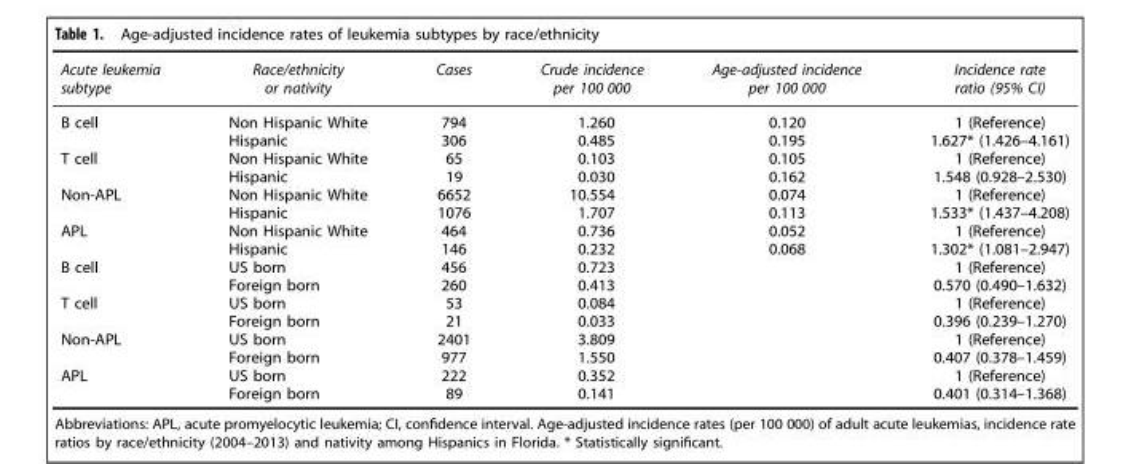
<table><thead><tr><td>Acute leukemia subtype</td><td>Race/ethnicity or nativity</td><td>Cases</td><td>Crude incidence per 100 000</td><td>Age-adjusted incidence per 100 000</td><td>Incidence rate ratio (95% CI)</td></tr></thead><tbody><tr><td rowspan="2">B cell</td><td>Non Hispanic White</td><td>794</td><td>1.260</td><td>0.120</td><td>1 (Reference)</td></tr><tr><td>Hispanic</td><td>306</td><td>0.485</td><td>0.195</td><td>1.627* (1.426–4.161)</td></tr><tr><td rowspan="2">T cell</td><td>Non Hispanic White</td><td>65</td><td>0.103</td><td>0.105</td><td>1 (Reference)</td></tr><tr><td>Hispanic</td><td>19</td><td>0.030</td><td>0.162</td><td>1.548 (0.928–2.530)</td></tr><tr><td rowspan="2">Non-APL</td><td>Non Hispanic White</td><td>6652</td><td>10.554</td><td>0.074</td><td>1 (Reference)</td></tr><tr><td>Hispanic</td><td>1076</td><td>1.707</td><td>0.113</td><td>1.533* (1.437–4.208)</td></tr><tr><td rowspan="2">APL</td><td>Non Hispanic White</td><td>464</td><td>0.736</td><td>0.052</td><td>1 (Reference)</td></tr><tr><td>Hispanic</td><td>146</td><td>0.232</td><td>0.068</td><td>1.302* (1.081–2.947)</td></tr><tr><td rowspan="2">B cell</td><td>US born</td><td>456</td><td>0.723</td><td></td><td>1 (Reference)</td></tr><tr><td>Foreign born</td><td>260</td><td>0.413</td><td></td><td>0.570 (0.490–1.632)</td></tr><tr><td rowspan="2">T cell</td><td>US born</td><td>53</td><td>0.084</td><td></td><td>1 (Reference)</td></tr><tr><td>Foreign born</td><td>21</td><td>0.033</td><td></td><td>0.396 (0.239–1.270)</td></tr><tr><td rowspan="2">Non-APL</td><td>US born</td><td>2401</td><td>3.809</td><td></td><td>1 (Reference)</td></tr><tr><td>Foreign born</td><td>977</td><td>1.550</td><td></td><td>0.407 (0.378–1.459)</td></tr><tr><td rowspan="2">APL</td><td>US born</td><td>222</td><td>0.352</td><td></td><td>1 (Reference)</td></tr><tr><td>Foreign born</td><td>89</td><td>0.141</td><td></td><td>0.401 (0.314–1.368)</td></tr></tbody></table>